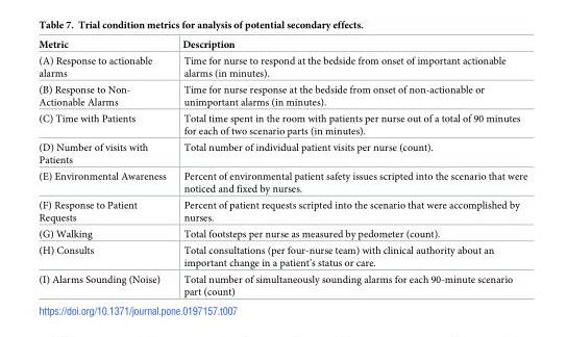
<table><thead><tr><td>Metric</td><td>Description</td></tr></thead><tbody><tr><td>(A) Response to actionable alarms</td><td>Time for nurse to respond at the bedside from onset of important actionable alarms (in minutes).</td></tr><tr><td>(B) Response to Non- Actionable Alarms</td><td>Time for nurse response at the bedside from onset of non-actionable or unimportant alarms (in minutes).</td></tr><tr><td>(C) Time with Patients</td><td>Total time spent in the room with patients per nurse out of a total of 90 minutes for each of two scenario parts (in minutes).</td></tr><tr><td>(D) Number of visits with Patients</td><td>Total number of individual patient visits per nurse (count).</td></tr><tr><td>(E) Environmental Awareness</td><td>Percent of environmental patient safety issues scripted into the scenario that were noticed and fixed by nurses.</td></tr><tr><td>(F) Response to Patient Requests</td><td>Percent of patient requests scripted into the scenario that were accomplished by nurses.</td></tr><tr><td>(G) Walking</td><td>Total footsteps per nurse as measured by pedometer (count).</td></tr><tr><td>(H) Consults</td><td>Total consultations (per four-nurse team) with clinical authority about an important change in a patient’s status or care.</td></tr><tr><td>(I) Alarms Sounding (Noise)</td><td>Total number of simultaneously sounding alarms for each 90-minute scenario part (count)</td></tr></tbody></table>